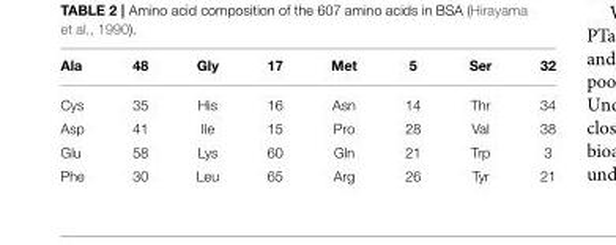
<table><thead><tr><td>Ala</td><td>48</td><td>Gly</td><td>17</td><td>Met</td><td>5</td><td>Ser</td><td>32</td></tr></thead><tbody><tr><td>Cys</td><td>35</td><td>His</td><td>16</td><td>Asn</td><td>14</td><td>Thr</td><td>34</td></tr><tr><td>Asp</td><td>41</td><td>Ile</td><td>15</td><td>Pro</td><td>28</td><td>Val</td><td>38</td></tr><tr><td>Glu</td><td>58</td><td>Lys</td><td>60</td><td>Gln</td><td>21</td><td>Trp</td><td>3</td></tr><tr><td>Phe</td><td>30</td><td>Leu</td><td>65</td><td>Arg</td><td>26</td><td>Tyr</td><td>21</td></tr></tbody></table>